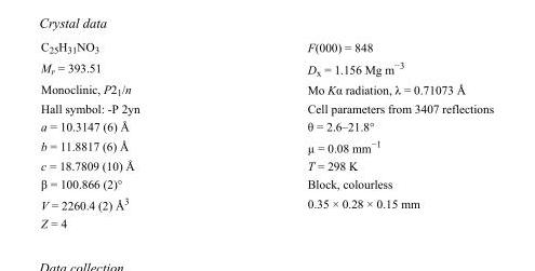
<table><tbody><tr><td>C<sub>25</sub>H<sub>31</sub>NO<sub>3</sub></td><td>F(000) = 848</td></tr><tr><td>M<sub>r</sub> = 393.51</td><td>D<sub>x</sub> = 1.156 Mg m<sup>−3</sup></td></tr><tr><td>Monoclinic, P2<sub>1</sub>/n</td><td>Mo Kα radiation, λ = 0.71073 Å</td></tr><tr><td>Hall symbol: -P 2yn</td><td>Cell parameters from 3407 reflections</td></tr><tr><td>a = 10.3147 (6) Å</td><td>θ = 2.6–21.8°</td></tr><tr><td>b = 11.8817 (6) Å</td><td>µ = 0.08 mm<sup>−1</sup></td></tr><tr><td>c = 18.7809 (10) Å</td><td>T = 298 K</td></tr><tr><td>β = 100.866 (2)°</td><td>Block, colourless</td></tr><tr><td>V = 2260.4 (2) Å<sup>3</sup></td><td>0.35 × 0.28 × 0.15 mm</td></tr><tr><td>Z = 4</td><td></td></tr></tbody></table>